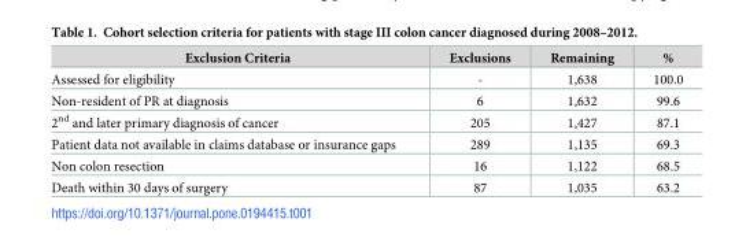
<table><thead><tr><td>Exclusion Criteria</td><td>Exclusions</td><td>Remaining</td><td>%</td></tr></thead><tbody><tr><td>Assessed for eligibility</td><td>-</td><td>1,638</td><td>100.0</td></tr><tr><td>Non-resident of PR at diagnosis</td><td>6</td><td>1,632</td><td>99.6</td></tr><tr><td>2<sup>nd</sup> and later primary diagnosis of cancer</td><td>205</td><td>1,427</td><td>87.1</td></tr><tr><td>Patient data not available in claims database or insurance gaps</td><td>289</td><td>1,135</td><td>69.3</td></tr><tr><td>Non colon resection</td><td>16</td><td>1,122</td><td>68.5</td></tr><tr><td>Death within 30 days of surgery</td><td>87</td><td>1,035</td><td>63.2</td></tr></tbody></table>